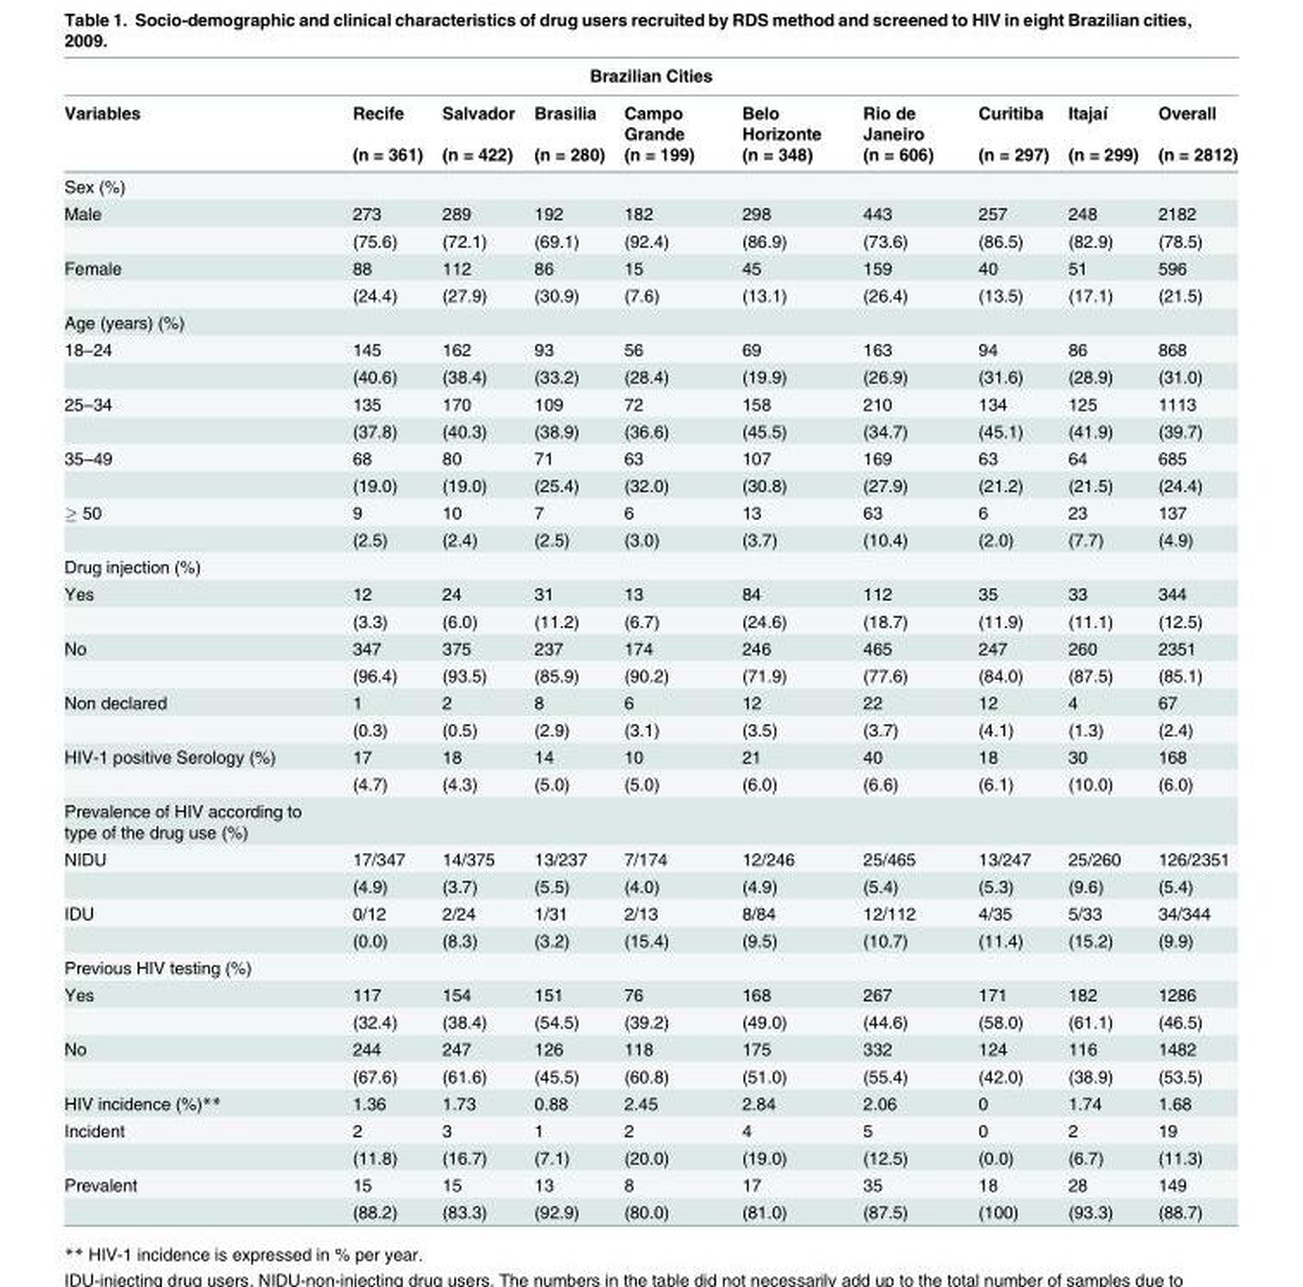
<table><thead><tr><td colspan="10">Brazilian Cities</td></tr><tr><td rowspan="2">Variables</td><td rowspan="2">Recife (n = 361)</td><td rowspan="2">Salvador (n = 422)</td><td rowspan="2">Brasilia (n = 280)</td><td rowspan="2">Campo Grande (n = 199)</td><td rowspan="2">Belo Horizonte (n = 348)</td><td rowspan="2">Rio de Janeiro (n = 606)</td><td rowspan="2">Curitiba (n = 297)</td><td rowspan="2">Itajaí (n = 299)</td><td rowspan="2">Overall (n = 2812)</td></tr><tr></tr></thead><tbody><tr><td colspan="10">Sex (%)</td></tr><tr><td rowspan="2">Male</td><td>273</td><td>289</td><td>192</td><td>182</td><td>298</td><td>443</td><td>257</td><td>248</td><td>2182</td></tr><tr><td>(75.6)</td><td>(72.1)</td><td>(69.1)</td><td>(92.4)</td><td>(86.9)</td><td>(73.6)</td><td>(86.5)</td><td>(82.9)</td><td>(78.5)</td></tr><tr><td rowspan="2">Female</td><td>88</td><td>112</td><td>86</td><td>15</td><td>45</td><td>159</td><td>40</td><td>51</td><td>596</td></tr><tr><td>(24.4)</td><td>(27.9)</td><td>(30.9)</td><td>(7.6)</td><td>(13.1)</td><td>(26.4)</td><td>(13.5)</td><td>(17.1)</td><td>(21.5)</td></tr><tr><td colspan="10">Age (years) (%)</td></tr><tr><td rowspan="2">18–24</td><td>145</td><td>162</td><td>93</td><td>56</td><td>69</td><td>163</td><td>94</td><td>86</td><td>868</td></tr><tr><td>(40.6)</td><td>(38.4)</td><td>(33.2)</td><td>(28.4)</td><td>(19.9)</td><td>(26.9)</td><td>(31.6)</td><td>(28.9)</td><td>(31.0)</td></tr><tr><td rowspan="2">25–34</td><td>135</td><td>170</td><td>109</td><td>72</td><td>158</td><td>210</td><td>134</td><td>125</td><td>1113</td></tr><tr><td>(37.8)</td><td>(40.3)</td><td>(38.9)</td><td>(36.6)</td><td>(45.5)</td><td>(34.7)</td><td>(45.1)</td><td>(41.9)</td><td>(39.7)</td></tr><tr><td rowspan="2">35–49</td><td>68</td><td>80</td><td>71</td><td>63</td><td>107</td><td>169</td><td>63</td><td>64</td><td>685</td></tr><tr><td>(19.0)</td><td>(19.0)</td><td>(25.4)</td><td>(32.0)</td><td>(30.8)</td><td>(27.9)</td><td>(21.2)</td><td>(21.5)</td><td>(24.4)</td></tr><tr><td rowspan="2">≥ 50</td><td>9</td><td>10</td><td>7</td><td>6</td><td>13</td><td>63</td><td>6</td><td>23</td><td>137</td></tr><tr><td>(2.5)</td><td>(2.4)</td><td>(2.5)</td><td>(3.0)</td><td>(3.7)</td><td>(10.4)</td><td>(2.0)</td><td>(7.7)</td><td>(4.9)</td></tr><tr><td colspan="10">Drug injection (%)</td></tr><tr><td rowspan="2">Yes</td><td>12</td><td>24</td><td>31</td><td>13</td><td>84</td><td>112</td><td>35</td><td>33</td><td>344</td></tr><tr><td>(3.3)</td><td>(6.0)</td><td>(11.2)</td><td>(6.7)</td><td>(24.6)</td><td>(18.7)</td><td>(11.9)</td><td>(11.1)</td><td>(12.5)</td></tr><tr><td rowspan="2">No</td><td>347</td><td>375</td><td>237</td><td>174</td><td>246</td><td>465</td><td>247</td><td>260</td><td>2351</td></tr><tr><td>(96.4)</td><td>(93.5)</td><td>(85.9)</td><td>(90.2)</td><td>(71.9)</td><td>(77.6)</td><td>(84.0)</td><td>(87.5)</td><td>(85.1)</td></tr><tr><td rowspan="2">Non declared</td><td>1</td><td>2</td><td>8</td><td>6</td><td>12</td><td>22</td><td>12</td><td>4</td><td>67</td></tr><tr><td>(0.3)</td><td>(0.5)</td><td>(2.9)</td><td>(3.1)</td><td>(3.5)</td><td>(3.7)</td><td>(4.1)</td><td>(1.3)</td><td>(2.4)</td></tr><tr><td rowspan="2">HIV-1 positive Serology (%)</td><td>17</td><td>18</td><td>14</td><td>10</td><td>21</td><td>40</td><td>18</td><td>30</td><td>168</td></tr><tr><td>(4.7)</td><td>(4.3)</td><td>(5.0)</td><td>(5.0)</td><td>(6.0)</td><td>(6.6)</td><td>(6.1)</td><td>(10.0)</td><td>(6.0)</td></tr><tr><td colspan="10">Prevalence of HIV according to type of the drug use (%)</td></tr><tr><td rowspan="2">NIDU</td><td>17/347</td><td>14/375</td><td>13/237</td><td>7/174</td><td>12/246</td><td>25/465</td><td>13/247</td><td>25/260</td><td>126/2351</td></tr><tr><td>(4.9)</td><td>(3.7)</td><td>(5.5)</td><td>(4.0)</td><td>(4.9)</td><td>(5.4)</td><td>(5.3)</td><td>(9.6)</td><td>(5.4)</td></tr><tr><td rowspan="2">IDU</td><td>0/12</td><td>2/24</td><td>1/31</td><td>2/13</td><td>8/84</td><td>12/112</td><td>4/35</td><td>5/33</td><td>34/344</td></tr><tr><td>(0.0)</td><td>(8.3)</td><td>(3.2)</td><td>(15.4)</td><td>(9.5)</td><td>(10.7)</td><td>(11.4)</td><td>(15.2)</td><td>(9.9)</td></tr><tr><td colspan="10">Previous HIV testing (%)</td></tr><tr><td rowspan="2">Yes</td><td>117</td><td>154</td><td>151</td><td>76</td><td>168</td><td>267</td><td>171</td><td>182</td><td>1286</td></tr><tr><td>(32.4)</td><td>(38.4)</td><td>(54.5)</td><td>(39.2)</td><td>(49.0)</td><td>(44.6)</td><td>(58.0)</td><td>(61.1)</td><td>(46.5)</td></tr><tr><td rowspan="2">No</td><td>244</td><td>247</td><td>126</td><td>118</td><td>175</td><td>332</td><td>124</td><td>116</td><td>1482</td></tr><tr><td>(67.6)</td><td>(61.6)</td><td>(45.5)</td><td>(60.8)</td><td>(51.0)</td><td>(55.4)</td><td>(42.0)</td><td>(38.9)</td><td>(53.5)</td></tr><tr><td>HIV incidence (%)**</td><td>1.36</td><td>1.73</td><td>0.88</td><td>2.45</td><td>2.84</td><td>2.06</td><td>0</td><td>1.74</td><td>1.68</td></tr><tr><td rowspan="2">Incident</td><td>2</td><td>3</td><td>1</td><td>2</td><td>4</td><td>5</td><td>0</td><td>2</td><td>19</td></tr><tr><td>(11.8)</td><td>(16.7)</td><td>(7.1)</td><td>(20.0)</td><td>(19.0)</td><td>(12.5)</td><td>(0.0)</td><td>(6.7)</td><td>(11.3)</td></tr><tr><td rowspan="2">Prevalent</td><td>15</td><td>15</td><td>13</td><td>8</td><td>17</td><td>35</td><td>18</td><td>28</td><td>149</td></tr><tr><td>(88.2)</td><td>(83.3)</td><td>(92.9)</td><td>(80.0)</td><td>(81.0)</td><td>(87.5)</td><td>(100)</td><td>(93.3)</td><td>(88.7)</td></tr></tbody></table>